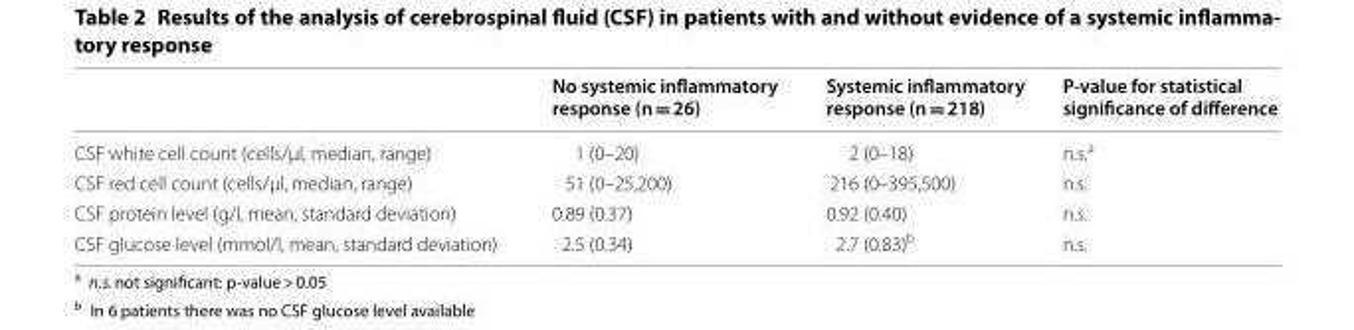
<table><thead><tr><td></td><td>No systemic inflammatory response (n = 26)</td><td>Systemic inflammatory response (n = 218)</td><td>P-value for statistical significance of difference</td></tr></thead><tbody><tr><td>CSF white cell count (cells/μl, median, range)</td><td>1 (0–20)</td><td>2 (0–18)</td><td>n.s.<sup>a</sup></td></tr><tr><td>CSF red cell count (cells/μl, median, range)</td><td>51 (0–25,200)</td><td>216 (0–395,500)</td><td>n.s.</td></tr><tr><td>CSF protein level (g/l, mean, standard deviation)</td><td>0.89 (0.37)</td><td>0.92 (0.40)</td><td>n.s.</td></tr><tr><td>CSF glucose level (mmol/l, mean, standard deviation)</td><td>2.5 (0.34)</td><td>2.7 (0.83)<sup>b</sup></td><td>n.s.</td></tr></tbody></table>